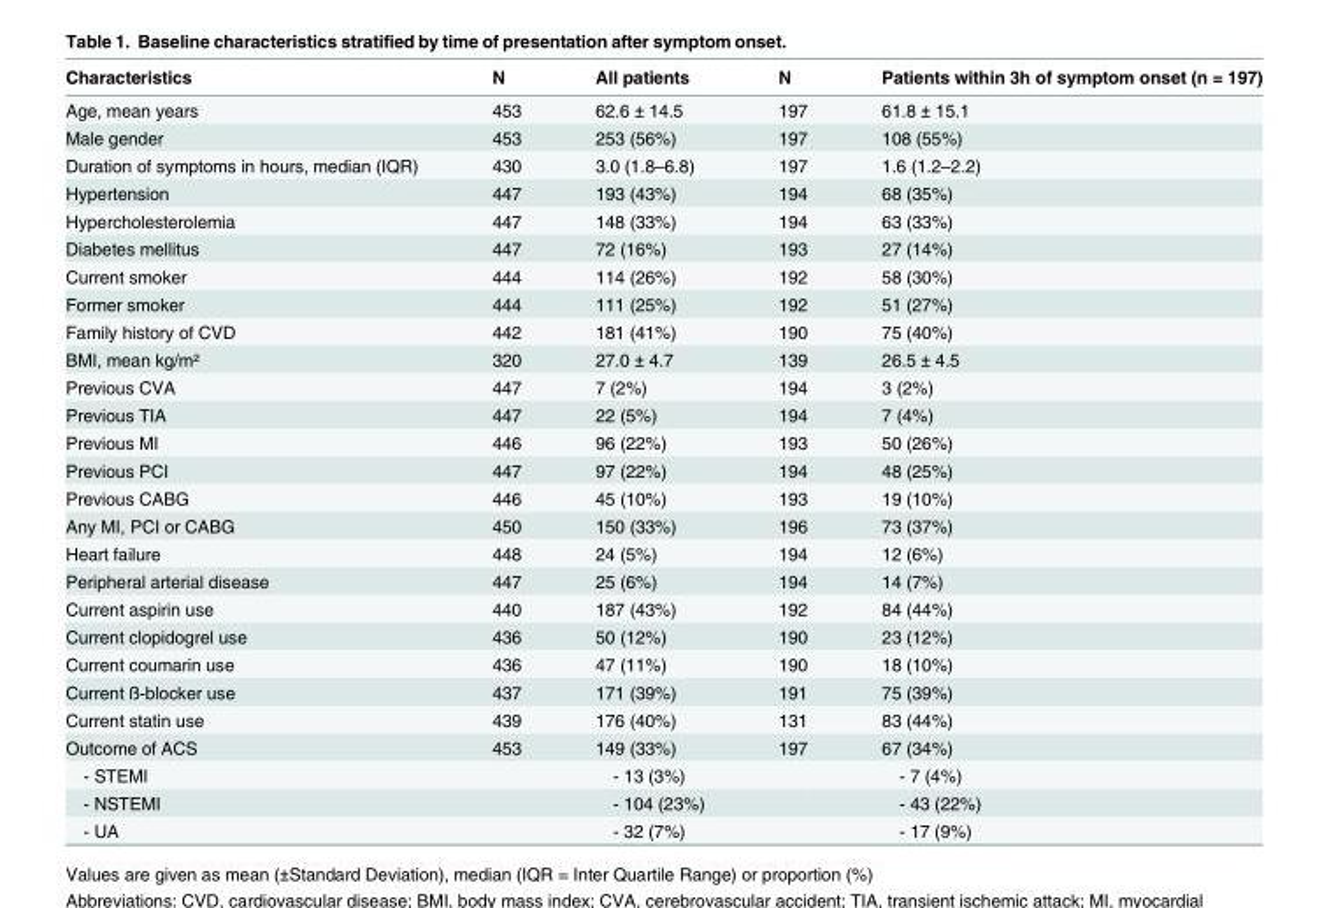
<table><thead><tr><td>Characteristics</td><td>N</td><td>All patients</td><td>N</td><td>Patients within 3h of symptom onset (n = 197)</td></tr></thead><tbody><tr><td>Age, mean years</td><td>453</td><td>62.6 ± 14.5</td><td>197</td><td>61.8 ± 15.1</td></tr><tr><td>Male gender</td><td>453</td><td>253 (56%)</td><td>197</td><td>108 (55%)</td></tr><tr><td>Duration of symptoms in hours, median (IQR)</td><td>430</td><td>3.0 (1.8–6.8)</td><td>197</td><td>1.6 (1.2–2.2)</td></tr><tr><td>Hypertension</td><td>447</td><td>193 (43%)</td><td>194</td><td>68 (35%)</td></tr><tr><td>Hypercholesterolemia</td><td>447</td><td>148 (33%)</td><td>194</td><td>63 (33%)</td></tr><tr><td>Diabetes mellitus</td><td>447</td><td>72 (16%)</td><td>193</td><td>27 (14%)</td></tr><tr><td>Current smoker</td><td>444</td><td>114 (26%)</td><td>192</td><td>58 (30%)</td></tr><tr><td>Former smoker</td><td>444</td><td>111 (25%)</td><td>192</td><td>51 (27%)</td></tr><tr><td>Family history of CVD</td><td>442</td><td>181 (41%)</td><td>190</td><td>75 (40%)</td></tr><tr><td>BMI, mean kg/m²</td><td>320</td><td>27.0 ± 4.7</td><td>139</td><td>26.5 ± 4.5</td></tr><tr><td>Previous CVA</td><td>447</td><td>7 (2%)</td><td>194</td><td>3 (2%)</td></tr><tr><td>Previous TIA</td><td>447</td><td>22 (5%)</td><td>194</td><td>7 (4%)</td></tr><tr><td>Previous MI</td><td>446</td><td>96 (22%)</td><td>193</td><td>50 (26%)</td></tr><tr><td>Previous PCI</td><td>447</td><td>97 (22%)</td><td>194</td><td>48 (25%)</td></tr><tr><td>Previous CABG</td><td>446</td><td>45 (10%)</td><td>193</td><td>19 (10%)</td></tr><tr><td>Any MI, PCI or CABG</td><td>450</td><td>150 (33%)</td><td>196</td><td>73 (37%)</td></tr><tr><td>Heart failure</td><td>448</td><td>24 (5%)</td><td>194</td><td>12 (6%)</td></tr><tr><td>Peripheral arterial disease</td><td>447</td><td>25 (6%)</td><td>194</td><td>14 (7%)</td></tr><tr><td>Current aspirin use</td><td>440</td><td>187 (43%)</td><td>192</td><td>84 (44%)</td></tr><tr><td>Current clopidogrel use</td><td>436</td><td>50 (12%)</td><td>190</td><td>23 (12%)</td></tr><tr><td>Current coumarin use</td><td>436</td><td>47 (11%)</td><td>190</td><td>18 (10%)</td></tr><tr><td>Current ß-blocker use</td><td>437</td><td>171 (39%)</td><td>191</td><td>75 (39%)</td></tr><tr><td>Current statin use</td><td>439</td><td>176 (40%)</td><td>131</td><td>83 (44%)</td></tr><tr><td>Outcome of ACS</td><td>453</td><td>149 (33%)</td><td>197</td><td>67 (34%)</td></tr><tr><td>- STEMI</td><td></td><td>- 13 (3%)</td><td></td><td>- 7 (4%)</td></tr><tr><td>- NSTEMI</td><td></td><td>- 104 (23%)</td><td></td><td>- 43 (22%)</td></tr><tr><td>- UA</td><td></td><td>- 32 (7%)</td><td></td><td>- 17 (9%)</td></tr></tbody></table>